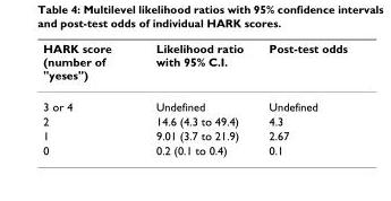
<table><thead><tr><td>HARK score (number of &quot;yeses&quot;)</td><td>Likelihood ratio with 95% C.I.</td><td>Post-test odds</td></tr></thead><tbody><tr><td>3 or 4</td><td>Undefined</td><td>Undefined</td></tr><tr><td>2</td><td>14.6 (4.3 to 49.4)</td><td>4.3</td></tr><tr><td>1</td><td>9.01 (3.7 to 21.9)</td><td>2.67</td></tr><tr><td>0</td><td>0.2 (0.1 to 0.4)</td><td>0.1</td></tr></tbody></table>